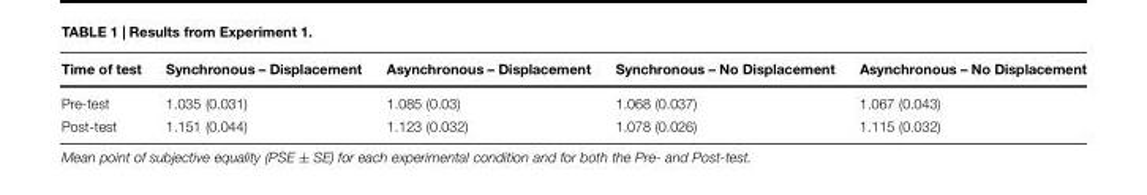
<table><thead><tr><td>Time of test</td><td>Synchronous – Displacement</td><td>Asynchronous – Displacement</td><td>Synchronous – No Displacement</td><td>Asynchronous – No Displacement</td></tr></thead><tbody><tr><td>Pre-test</td><td>1.035 (0.031)</td><td>1.085 (0.03)</td><td>1.068 (0.037)</td><td>1.067 (0.043)</td></tr><tr><td>Post-test</td><td>1.151 (0.044)</td><td>1.123 (0.032)</td><td>1.078 (0.026)</td><td>1.115 (0.032)</td></tr></tbody></table>